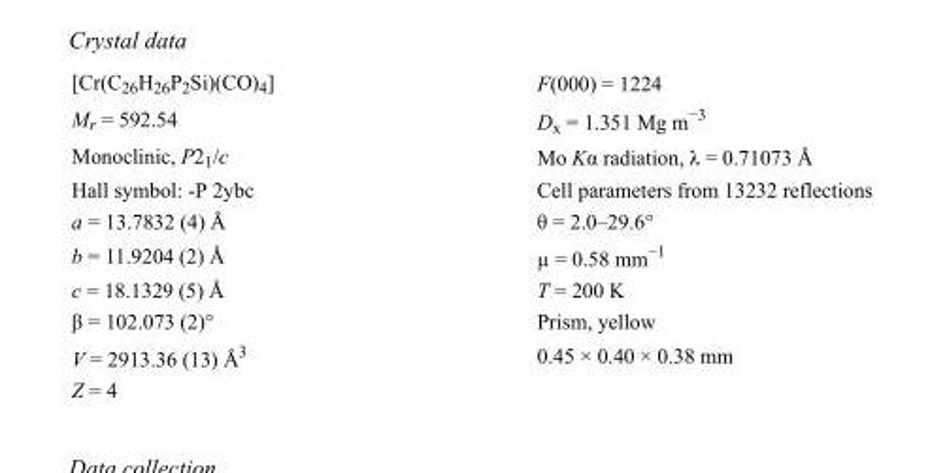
<table><tbody><tr><td>[Cr(C<sub>26</sub>H<sub>26</sub>P<sub>2</sub>Si)(CO)<sub>4</sub>]</td><td>F(000) = 1224</td></tr><tr><td>M<sub>r</sub> = 592.54</td><td>D<sub>x</sub> = 1.351 Mg m<sup>−3</sup></td></tr><tr><td>Monoclinic, P2<sub>1</sub>/c</td><td>Mo Kα radiation, λ = 0.71073 Å</td></tr><tr><td>Hall symbol: -P 2ybc</td><td>Cell parameters from 13232 reflections</td></tr><tr><td>a = 13.7832 (4) Å</td><td>θ = 2.0–29.6°</td></tr><tr><td>b = 11.9204 (2) Å</td><td>µ = 0.58 mm<sup>−1</sup></td></tr><tr><td>c = 18.1329 (5) Å</td><td>T = 200 K</td></tr><tr><td>β = 102.073 (2)°</td><td>Prism, yellow</td></tr><tr><td>V = 2913.36 (13) Å<sup>3</sup></td><td>0.45 × 0.40 × 0.38 mm</td></tr><tr><td>Z = 4</td><td></td></tr></tbody></table>